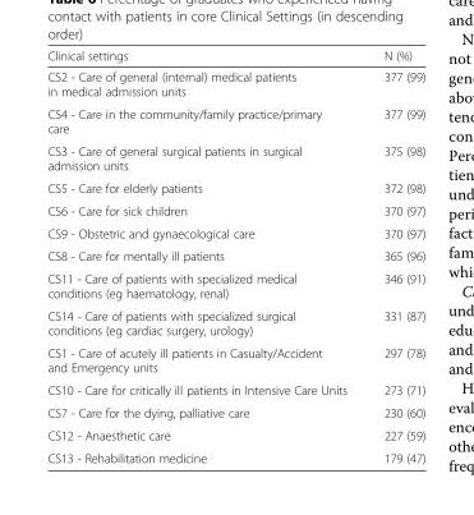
<table><thead><tr><td>Clinical settings</td><td>N (%)</td></tr></thead><tbody><tr><td>CS2 - Care of general (internal) medical patients in medical admission units</td><td>377 (99)</td></tr><tr><td>CS4 - Care in the community/family practice/primary care</td><td>377 (99)</td></tr><tr><td>CS3 - Care of general surgical patients in surgical admission units</td><td>375 (98)</td></tr><tr><td>CS5 - Care for elderly patients</td><td>372 (98)</td></tr><tr><td>CS6 - Care for sick children</td><td>370 (97)</td></tr><tr><td>CS9 - Obstetric and gynaecological care</td><td>370 (97)</td></tr><tr><td>CS8 - Care for mentally ill patients</td><td>365 (96)</td></tr><tr><td>CS11 - Care of patients with specialized medical conditions (eg haematology, renal)</td><td>346 (91)</td></tr><tr><td>CS14 - Care of patients with specialized surgical conditions (eg cardiac surgery, urology)</td><td>331 (87)</td></tr><tr><td>CS1 - Care of acutely ill patients in Casualty/Accident and Emergency units</td><td>297 (78)</td></tr><tr><td>CS10 - Care for critically ill patients in Intensive Care Units</td><td>273 (71)</td></tr><tr><td>CS7 - Care for the dying, palliative care</td><td>230 (60)</td></tr><tr><td>CS12 - Anaesthetic care</td><td>227 (59)</td></tr><tr><td>CS13 - Rehabilitation medicine</td><td>179 (47)</td></tr></tbody></table>